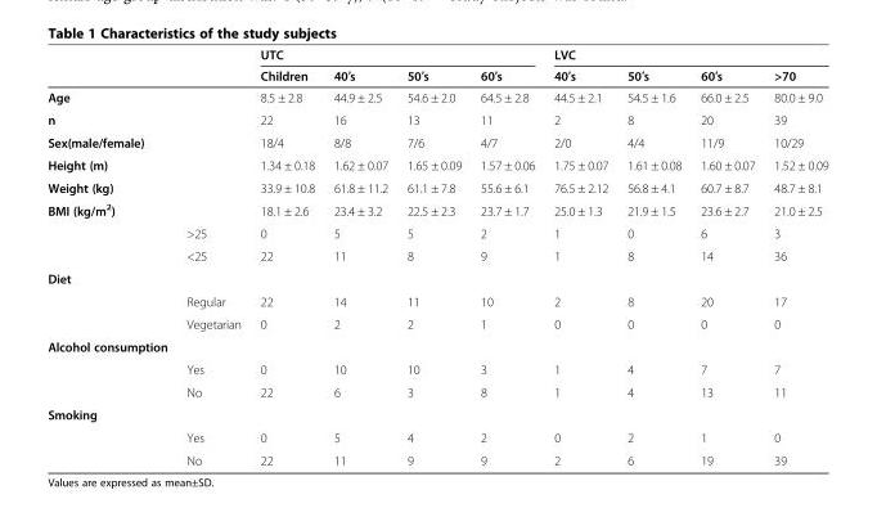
<table><thead><tr><td rowspan="2"></td><td rowspan="2"></td><td colspan="4">UTC</td><td colspan="4">LVC</td></tr><tr><td>Children</td><td>40′s</td><td>50′s</td><td>60′s</td><td>40′s</td><td>50′s</td><td>60′s</td><td>&gt;70</td></tr></thead><tbody><tr><td colspan="2">Age</td><td>8.5 ± 2.8</td><td>44.9 ± 2.5</td><td>54.6 ± 2.0</td><td>64.5 ± 2.8</td><td>44.5 ± 2.1</td><td>54.5 ± 1.6</td><td>66.0 ± 2.5</td><td>80.0 ± 9.0</td></tr><tr><td colspan="2">n</td><td>22</td><td>16</td><td>13</td><td>11</td><td>2</td><td>8</td><td>20</td><td>39</td></tr><tr><td colspan="2">Sex(male/female)</td><td>18/4</td><td>8/8</td><td>7/6</td><td>4/7</td><td>2/0</td><td>4/4</td><td>11/9</td><td>10/29</td></tr><tr><td colspan="2">Height (m)</td><td>1.34 ± 0.18</td><td>1.62 ± 0.07</td><td>1.65 ± 0.09</td><td>1.57 ± 0.06</td><td>1.75 ± 0.07</td><td>1.61 ± 0.08</td><td>1.60 ± 0.07</td><td>1.52 ± 0.09</td></tr><tr><td colspan="2">Weight (kg)</td><td>33.9 ± 10.8</td><td>61.8 ± 11.2</td><td>61.1 ± 7.8</td><td>55.6 ± 6.1</td><td>76.5 ± 2.12</td><td>56.8 ± 4.1</td><td>60.7 ± 8.7</td><td>48.7 ± 8.1</td></tr><tr><td colspan="2">BMI (kg/m<sup>2</sup>)</td><td>18.1 ± 2.6</td><td>23.4 ± 3.2</td><td>22.5 ± 2.3</td><td>23.7 ± 1.7</td><td>25.0 ± 1.3</td><td>21.9 ± 1.5</td><td>23.6 ± 2.7</td><td>21.0 ± 2.5</td></tr><tr><td></td><td>&gt;25</td><td>0</td><td>5</td><td>5</td><td>2</td><td>1</td><td>0</td><td>6</td><td>3</td></tr><tr><td></td><td>&lt;25</td><td>22</td><td>11</td><td>8</td><td>9</td><td>1</td><td>8</td><td>14</td><td>36</td></tr><tr><td colspan="10">Diet</td></tr><tr><td></td><td>Regular</td><td>22</td><td>14</td><td>11</td><td>10</td><td>2</td><td>8</td><td>20</td><td>17</td></tr><tr><td></td><td>Vegetarian</td><td>0</td><td>2</td><td>2</td><td>1</td><td>0</td><td>0</td><td>0</td><td>0</td></tr><tr><td colspan="10">Alcohol consumption</td></tr><tr><td></td><td>Yes</td><td>0</td><td>10</td><td>10</td><td>3</td><td>1</td><td>4</td><td>7</td><td>7</td></tr><tr><td></td><td>No</td><td>22</td><td>6</td><td>3</td><td>8</td><td>1</td><td>4</td><td>13</td><td>11</td></tr><tr><td colspan="10">Smoking</td></tr><tr><td></td><td>Yes</td><td>0</td><td>5</td><td>4</td><td>2</td><td>0</td><td>2</td><td>1</td><td>0</td></tr><tr><td></td><td>No</td><td>22</td><td>11</td><td>9</td><td>9</td><td>2</td><td>6</td><td>19</td><td>39</td></tr></tbody></table>